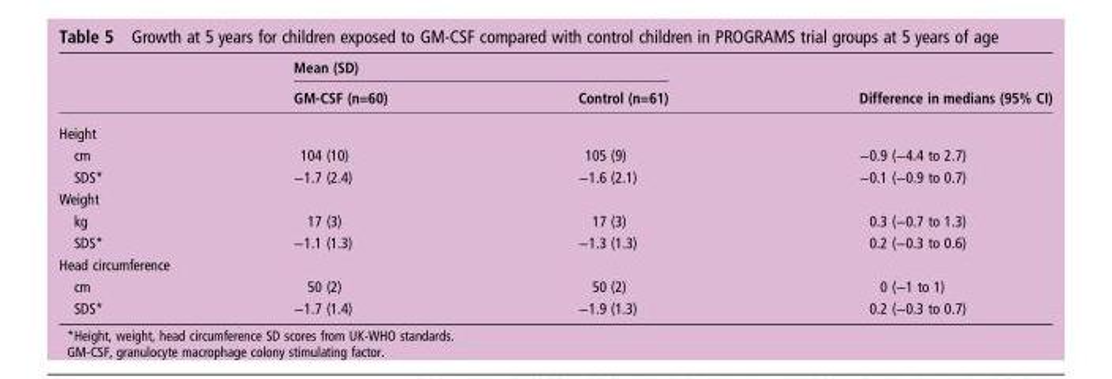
<table><thead><tr><td rowspan="2"></td><td colspan="2">Mean (SD)</td><td rowspan="2">Difference in medians (95% CI)</td></tr><tr><td>GM-CSF (n=60)</td><td>Control (n=61)</td></tr></thead><tbody><tr><td colspan="4">Height</td></tr><tr><td>cm</td><td>104 (10)</td><td>105 (9)</td><td>−0.9 (−4.4 to 2.7)</td></tr><tr><td>SDS*</td><td>−1.7 (2.4)</td><td>−1.6 (2.1)</td><td>−0.1 (−0.9 to 0.7)</td></tr><tr><td colspan="4">Weight</td></tr><tr><td>kg</td><td>17 (3)</td><td>17 (3)</td><td>0.3 (−0.7 to 1.3)</td></tr><tr><td>SDS*</td><td>−1.1 (1.3)</td><td>−1.3 (1.3)</td><td>0.2 (−0.3 to 0.6)</td></tr><tr><td colspan="4">Head circumference</td></tr><tr><td>cm</td><td>50 (2)</td><td>50 (2)</td><td>0 (−1 to 1)</td></tr><tr><td>SDS*</td><td>−1.7 (1.4)</td><td>−1.9 (1.3)</td><td>0.2 (−0.3 to 0.7)</td></tr></tbody></table>